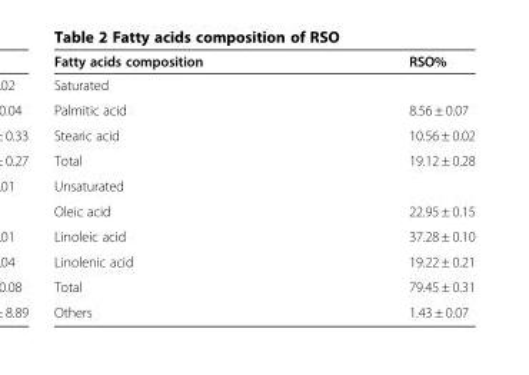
<table><thead><tr><td>Fatty acids composition</td><td>RSO%</td></tr></thead><tbody><tr><td colspan="2">Saturated</td></tr><tr><td>Palmitic acid</td><td>8.56 ± 0.07</td></tr><tr><td>Stearic acid</td><td>10.56 ± 0.02</td></tr><tr><td>Total</td><td>19.12 ± 0.28</td></tr><tr><td colspan="2">Unsaturated</td></tr><tr><td>Oleic acid</td><td>22.95 ± 0.15</td></tr><tr><td>Linoleic acid</td><td>37.28 ± 0.10</td></tr><tr><td>Linolenic acid</td><td>19.22 ± 0.21</td></tr><tr><td>Total</td><td>79.45 ± 0.31</td></tr><tr><td>Others</td><td>1.43 ± 0.07</td></tr></tbody></table>